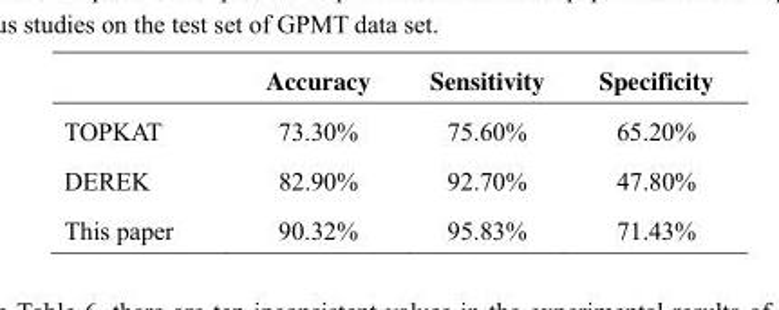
<table><thead><tr><td></td><td>Accuracy</td><td>Sensitivity</td><td>Specificity</td></tr></thead><tbody><tr><td>TOPKAT</td><td>73.30%</td><td>75.60%</td><td>65.20%</td></tr><tr><td>DEREK</td><td>82.90%</td><td>92.70%</td><td>47.80%</td></tr><tr><td>This paper</td><td>90.32%</td><td>95.83%</td><td>71.43%</td></tr></tbody></table>